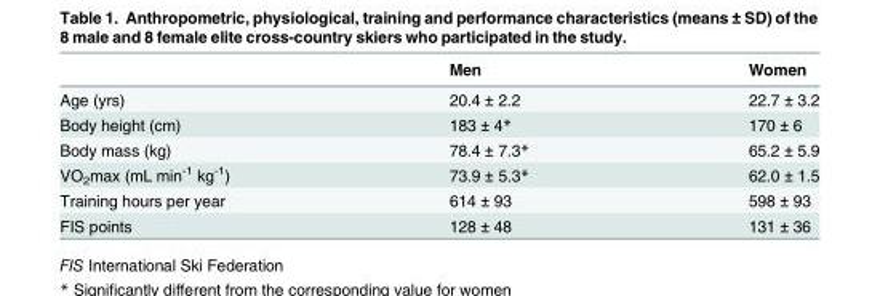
<table><thead><tr><td></td><td>Men</td><td>Women</td></tr></thead><tbody><tr><td>Age (yrs)</td><td>20.4 ± 2.2</td><td>22.7 ± 3.2</td></tr><tr><td>Body height (cm)</td><td>183 ± 4*</td><td>170 ± 6</td></tr><tr><td>Body mass (kg)</td><td>78.4 ± 7.3*</td><td>65.2 ± 5.9</td></tr><tr><td>VO<sub>2</sub>max (mL min<sup>-1</sup> kg<sup>-1</sup>)</td><td>73.9 ± 5.3*</td><td>62.0 ± 1.5</td></tr><tr><td>Training hours per year</td><td>614 ± 93</td><td>598 ± 93</td></tr><tr><td>FIS points</td><td>128 ± 48</td><td>131 ± 36</td></tr></tbody></table>